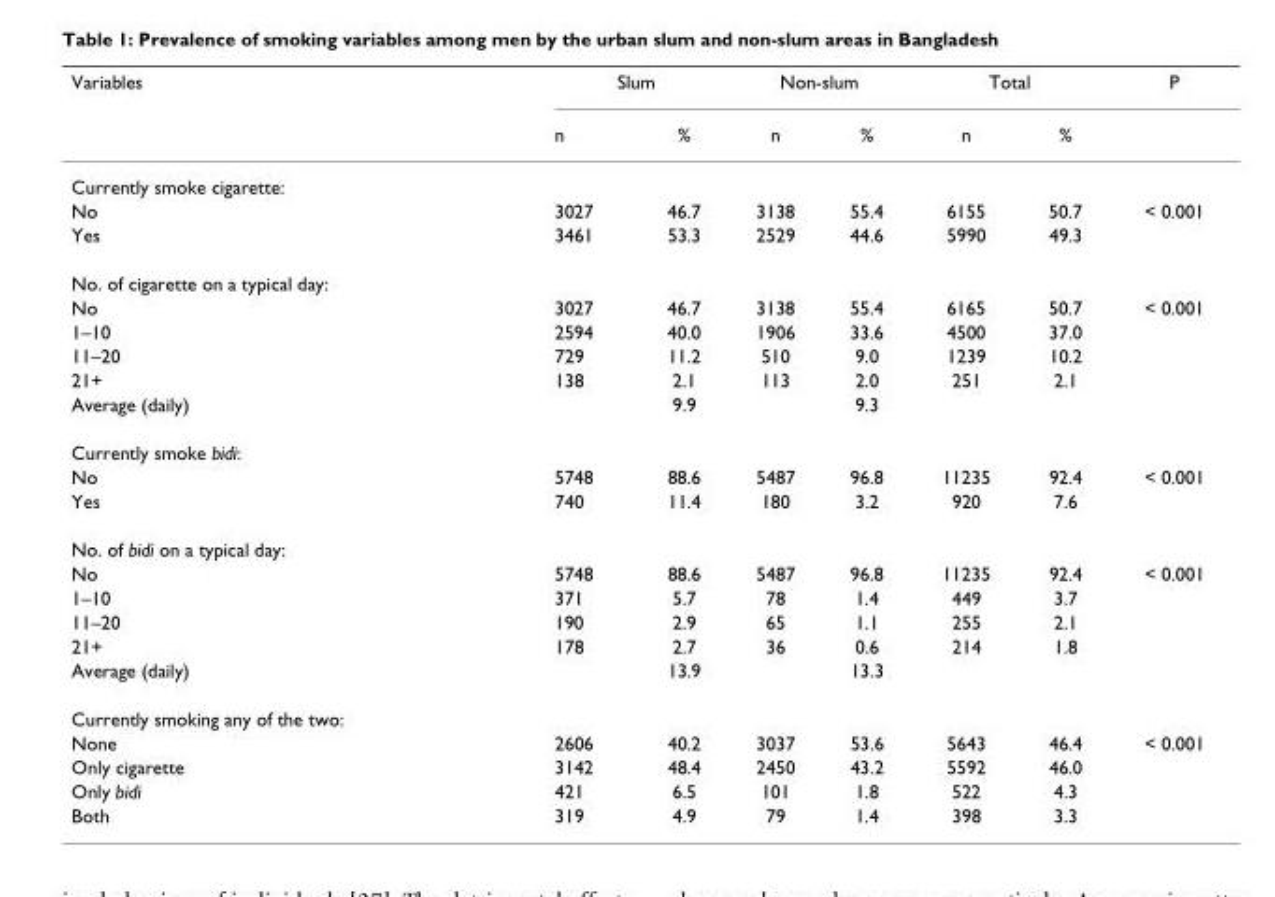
<table><thead><tr><td rowspan="2">Variables</td><td colspan="2">Slum</td><td colspan="2">Non-slum</td><td colspan="2">Total</td><td rowspan="2">P</td></tr><tr><td>n</td><td>%</td><td>n</td><td>%</td><td>n</td><td>%</td></tr></thead><tbody><tr><td colspan="8">Currently smoke cigarette:</td></tr><tr><td>No</td><td>3027</td><td>46.7</td><td>3138</td><td>55.4</td><td>6155</td><td>50.7</td><td>&lt; 0.001</td></tr><tr><td>Yes</td><td>3461</td><td>53.3</td><td>2529</td><td>44.6</td><td>5990</td><td>49.3</td><td></td></tr><tr><td colspan="8">No. of cigarette on a typical day:</td></tr><tr><td>No</td><td>3027</td><td>46.7</td><td>3138</td><td>55.4</td><td>6165</td><td>50.7</td><td>&lt; 0.001</td></tr><tr><td>1–10</td><td>2594</td><td>40.0</td><td>1906</td><td>33.6</td><td>4500</td><td>37.0</td><td></td></tr><tr><td>11–20</td><td>729</td><td>11.2</td><td>510</td><td>9.0</td><td>1239</td><td>10.2</td><td></td></tr><tr><td>21+</td><td>138</td><td>2.1</td><td>113</td><td>2.0</td><td>251</td><td>2.1</td><td></td></tr><tr><td>Average (daily)</td><td></td><td>9.9</td><td></td><td>9.3</td><td></td><td></td><td></td></tr><tr><td colspan="8">Currently smoke bidi:</td></tr><tr><td>No</td><td>5748</td><td>88.6</td><td>5487</td><td>96.8</td><td>11235</td><td>92.4</td><td>&lt; 0.001</td></tr><tr><td>Yes</td><td>740</td><td>11.4</td><td>180</td><td>3.2</td><td>920</td><td>7.6</td><td></td></tr><tr><td colspan="8">No. of bidi on a typical day:</td></tr><tr><td>No</td><td>5748</td><td>88.6</td><td>5487</td><td>96.8</td><td>11235</td><td>92.4</td><td>&lt; 0.001</td></tr><tr><td>1–10</td><td>371</td><td>5.7</td><td>78</td><td>1.4</td><td>449</td><td>3.7</td><td></td></tr><tr><td>11–20</td><td>190</td><td>2.9</td><td>65</td><td>1.1</td><td>255</td><td>2.1</td><td></td></tr><tr><td>21+</td><td>178</td><td>2.7</td><td>36</td><td>0.6</td><td>214</td><td>1.8</td><td></td></tr><tr><td>Average (daily)</td><td></td><td>13.9</td><td></td><td>13.3</td><td></td><td></td><td></td></tr><tr><td colspan="8">Currently smoking any of the two:</td></tr><tr><td>None</td><td>2606</td><td>40.2</td><td>3037</td><td>53.6</td><td>5643</td><td>46.4</td><td>&lt; 0.001</td></tr><tr><td>Only cigarette</td><td>3142</td><td>48.4</td><td>2450</td><td>43.2</td><td>5592</td><td>46.0</td><td></td></tr><tr><td>Only bidi</td><td>421</td><td>6.5</td><td>101</td><td>1.8</td><td>522</td><td>4.3</td><td></td></tr><tr><td>Both</td><td>319</td><td>4.9</td><td>79</td><td>1.4</td><td>398</td><td>3.3</td><td></td></tr></tbody></table>